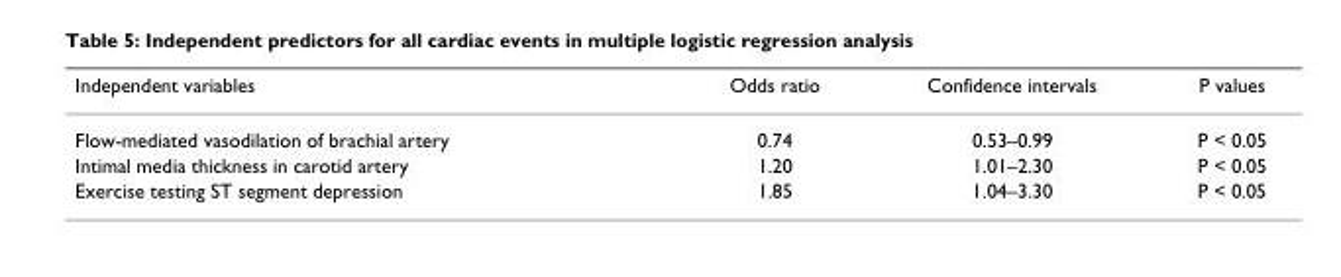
<table><thead><tr><td>Independent variables</td><td>Odds ratio</td><td>Confidence intervals</td><td>P values</td></tr></thead><tbody><tr><td>Flow-mediated vasodilation of brachial artery</td><td>0.74</td><td>0.53–0.99</td><td>P &lt; 0.05</td></tr><tr><td>Intimal media thickness in carotid artery</td><td>1.20</td><td>1.01–2.30</td><td>P &lt; 0.05</td></tr><tr><td>Exercise testing ST segment depression</td><td>1.85</td><td>1.04–3.30</td><td>P &lt; 0.05</td></tr></tbody></table>